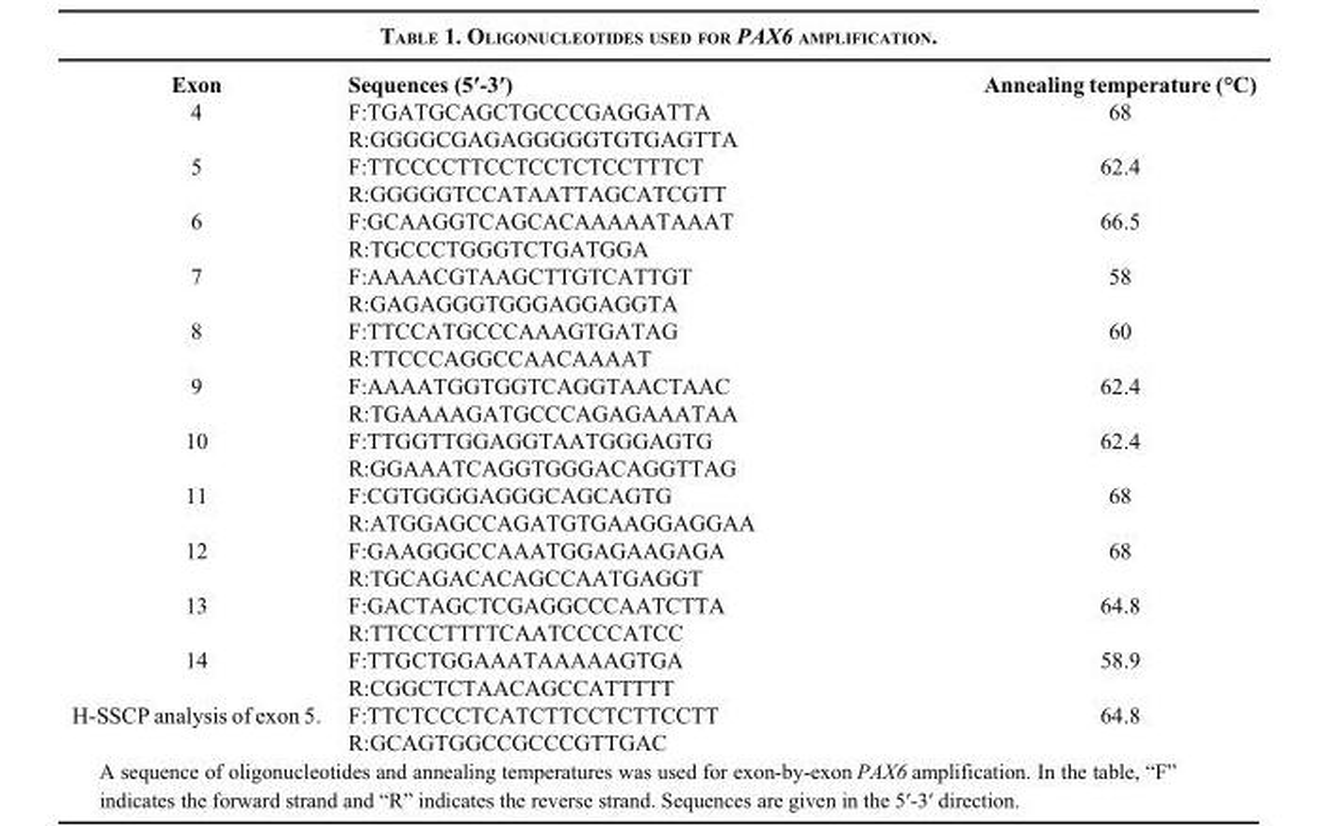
<table><thead><tr><td>Exon</td><td>Sequences (5′-3′)</td><td>Annealing temperature (°C)</td></tr></thead><tbody><tr><td rowspan="2">4</td><td>F:TGATGCAGCTGCCCGAGGATTA</td><td>68</td></tr><tr><td>R:GGGGCGAGAGGGGGTGTGAGTTA</td><td></td></tr><tr><td rowspan="2">5</td><td>F:TTCCCCTTCCTCCTCTCCTTTCT</td><td>62.4</td></tr><tr><td>R:GGGGGTCCATAATTAGCATCGTT</td><td></td></tr><tr><td rowspan="2">6</td><td>F:GCAAGGTCAGCACAAAAATAAAT</td><td>66.5</td></tr><tr><td>R:TGCCCTGGGTCTGATGGA</td><td></td></tr><tr><td rowspan="2">7</td><td>F:AAAACGTAAGCTTGTCATTGT</td><td>58</td></tr><tr><td>R:GAGAGGGTGGGAGGAGGTA</td><td></td></tr><tr><td rowspan="2">8</td><td>F:TTCCATGCCCAAAGTGATAG</td><td>60</td></tr><tr><td>R:TTCCCAGGCCAACAAAAT</td><td></td></tr><tr><td rowspan="2">9</td><td>F:AAAATGGTGGTCAGGTAACTAAC</td><td>62.4</td></tr><tr><td>R:TGAAAAGATGCCCAGAGAAATAA</td><td></td></tr><tr><td rowspan="2">10</td><td>F:TTGGTTGGAGGTAATGGGAGTG</td><td>62.4</td></tr><tr><td>R:GGAAATCAGGTGGGACAGGTTAG</td><td></td></tr><tr><td rowspan="2">11</td><td>F:CGTGGGGAGGGCAGCAGTG</td><td>68</td></tr><tr><td>R:ATGGAGCCAGATGTGAAGGAGGAA</td><td></td></tr><tr><td rowspan="2">12</td><td>F:GAAGGGCCAAATGGAGAAGAGA</td><td>68</td></tr><tr><td>R:TGCAGACACAGCCAATGAGGT</td><td></td></tr><tr><td rowspan="2">13</td><td>F:GACTAGCTCGAGGCCCAATCTTA</td><td>64.8</td></tr><tr><td>R:TTCCCTTTTCAATCCCCATCC</td><td></td></tr><tr><td rowspan="2">14</td><td>F:TTGCTGGAAATAAAAAGTGA</td><td>58.9</td></tr><tr><td>R:CGGCTCTAACAGCCATTTTT</td><td></td></tr><tr><td rowspan="2">H-SSCP analysis of exon 5.</td><td>F:TTCTCCCTCATCTTCCTCTTCCTT</td><td>64.8</td></tr><tr><td>R:GCAGTGGCCGCCCGTTGAC</td><td></td></tr></tbody></table>